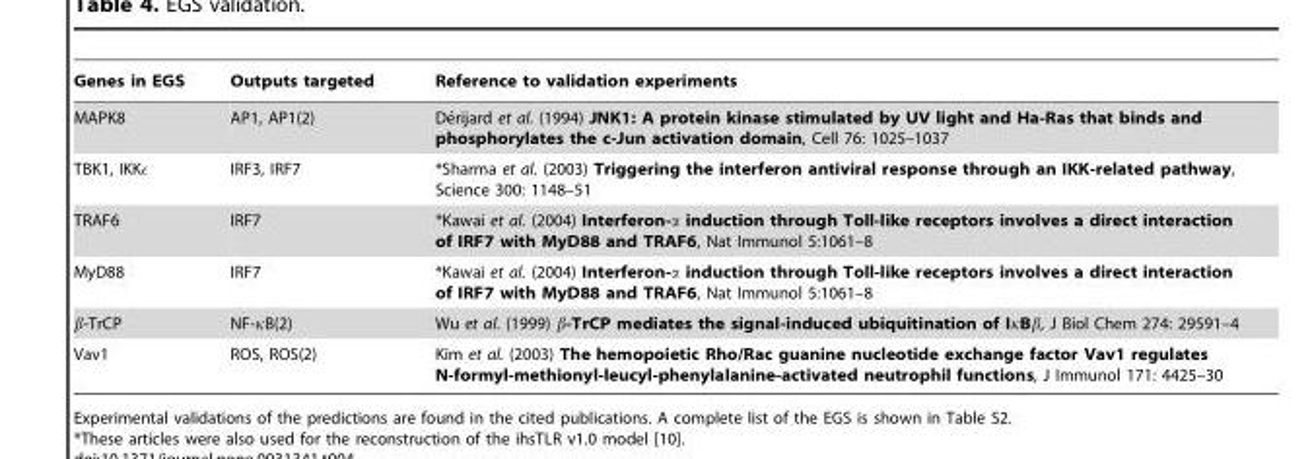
<table><thead><tr><td>Genes in EGS</td><td>Outputs targeted</td><td>Reference to validation experiments</td></tr></thead><tbody><tr><td>MAPK8</td><td>AP1, AP1(2)</td><td>De´rijard et al. (1994) JNK1: A protein kinase stimulated by UV light and Ha-Ras that binds and phosphorylates the c-Jun activation domain, Cell 76: 1025–1037</td></tr><tr><td>TBK1, IKKE</td><td>IRF3, IRF7</td><td>*Sharma et al. (2003) Triggering the interferon antiviral response through an IKK-related pathway, Science 300: 1148–51</td></tr><tr><td>TRAF6</td><td>IRF7</td><td>*Kawai et al. (2004) Interferon-a induction through Toll-like receptors involves a direct interaction of IRF7 with MyD88 and TRAF6, Nat Immunol 5:1061–8</td></tr><tr><td>MyD88</td><td>IRF7</td><td>*Kawai et al. (2004) Interferon-a induction through Toll-like receptors involves a direct interaction of IRF7 with MyD88 and TRAF6, Nat Immunol 5:1061–8</td></tr><tr><td>b-TrCP</td><td>NF-kB(2)</td><td>Wu et al. (1999) b-TrCP mediates the signal-induced ubiquitination of IkBb, J Biol Chem 274: 29591–4</td></tr><tr><td>Vav1</td><td>ROS, ROS(2)</td><td>Kim et al. (2003) The hemopoietic Rho/Rac guanine nucleotide exchange factor Vav1 regulates N-formyl-methionyl-leucyl-phenylalanine-activated neutrophil functions, J Immunol 171: 4425–30</td></tr></tbody></table>